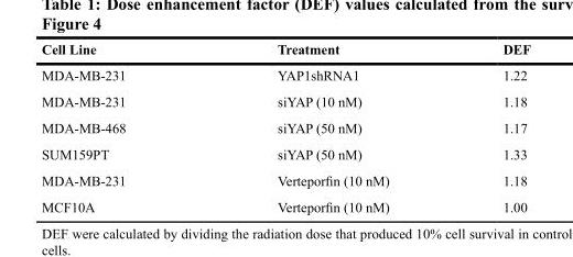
<table><thead><tr><td>Cell Line</td><td>Treatment</td><td>DEF</td></tr></thead><tbody><tr><td>MDA-MB-231</td><td>YAP1shRNA1</td><td>1.22</td></tr><tr><td>MDA-MB-231</td><td>siYAP (10 nM)</td><td>1.18</td></tr><tr><td>MDA-MB-468</td><td>siYAP (50 nM)</td><td>1.17</td></tr><tr><td>SUM159PT</td><td>siYAP (50 nM)</td><td>1.33</td></tr><tr><td>MDA-MB-231</td><td>Verteporfin (10 nM)</td><td>1.18</td></tr><tr><td>MCF10A</td><td>Verteporfin (10 nM)</td><td>1.00</td></tr></tbody></table>